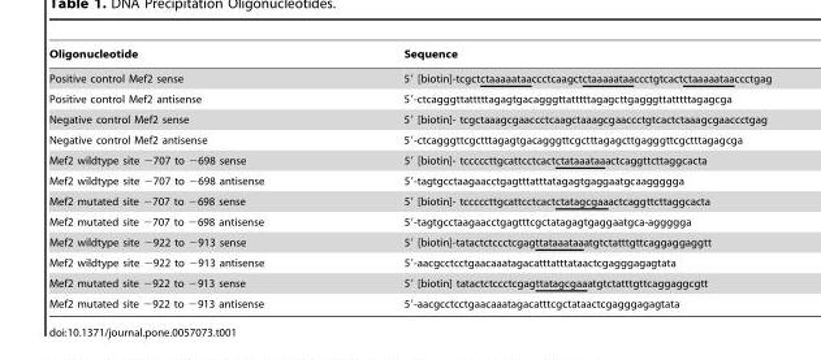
<table><thead><tr><td>Oligonucleotide</td><td>Sequence</td></tr></thead><tbody><tr><td>Positive control Mef2 sense</td><td>5′ [biotin]-tcgctctaaaaataaccctcaagctctaaaaataaccctgtcactctaaaaataaccctgag</td></tr><tr><td>Positive control Mef2 antisense</td><td>5′-ctcagggttatttttagagtgacagggttatttttagagcttgagggttatttttagagcga</td></tr><tr><td>Negative control Mef2 sense</td><td>5′ [biotin]- tcgctaaagcgaaccctcaagctaaagcgaaccctgtcactctaaagcgaaccctgag</td></tr><tr><td>Negative control Mef2 antisense</td><td>5′-ctcagggttcgctttagagtgacagggttcgctttagagcttgagggttcgctttagagcga</td></tr><tr><td>Mef2 wildtype site −707 to −698 sense</td><td>5′ [biotin]- tcccccttgcattcctcactctataaataaactcaggttcttaggcacta</td></tr><tr><td>Mef2 wildtype site −707 to −698 antisense</td><td>5′-tagtgcctaagaacctgagtttatttatagagtgaggaatgcaaggggga</td></tr><tr><td>Mef2 mutated site −707 to −698 sense</td><td>5′ [biotin]- tcccccttgcattcctcactctatagcgaaactcaggttcttaggcacta</td></tr><tr><td>Mef2 mutated site −707 to −698 antisense</td><td>5′-tagtgcctaagaacctgagtttcgctatagagtgaggaatgca-aggggga</td></tr><tr><td>Mef2 wildtype site −922 to −913 sense</td><td>5′ [biotin]-tatactctccctcgagttataaataaatgtctatttgttcaggaggaggtt</td></tr><tr><td>Mef2 wildtype site −922 to −913 antisense</td><td>5′-aacgcctcctgaacaaatagacatttatttataactcgagggagagtata</td></tr><tr><td>Mef2 mutated site −922 to −913 sense</td><td>5′ [biotin] tatactctccctcgagttatagcgaaatgtctatttgttcaggaggcgtt</td></tr><tr><td>Mef2 mutated site −922 to −913 antisense</td><td>5′-aacgcctcctgaacaaatagacatttcgctataactcgagggagagtata</td></tr></tbody></table>